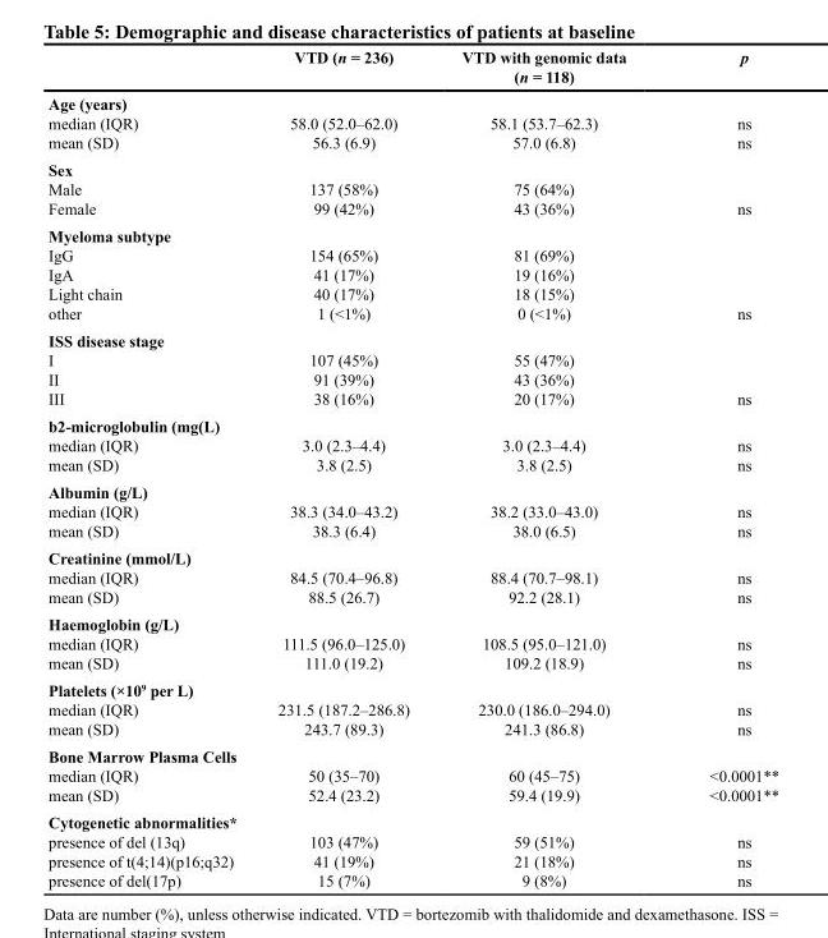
<table><thead><tr><td></td><td>VTD (n = 236)</td><td>VTD with genomic data (n = 118)</td><td>p</td></tr></thead><tbody><tr><td>Age (years) median (IQR) mean (SD)</td><td>58.0 (52.0–62.0) 56.3 (6.9)</td><td>58.1 (53.7–62.3) 57.0 (6.8)</td><td>ns ns</td></tr><tr><td>Sex Male Female</td><td>137 (58%) 99 (42%)</td><td>75 (64%) 43 (36%)</td><td>ns</td></tr><tr><td>Myeloma subtype IgG IgA Light chain other</td><td>154 (65%) 41 (17%) 40 (17%) 1 (&lt;1%)</td><td>81 (69%) 19 (16%) 18 (15%) 0 (&lt;1%)</td><td>ns</td></tr><tr><td>ISS disease stage I II III</td><td>107 (45%) 91 (39%) 38 (16%)</td><td>55 (47%) 43 (36%) 20 (17%)</td><td>ns</td></tr><tr><td>b2-microglobulin (mg(L) median (IQR) mean (SD)</td><td>3.0 (2.3–4.4) 3.8 (2.5)</td><td>3.0 (2.3–4.4) 3.8 (2.5)</td><td>ns ns</td></tr><tr><td>Albumin (g/L) median (IQR) mean (SD)</td><td>38.3 (34.0–43.2) 38.3 (6.4)</td><td>38.2 (33.0–43.0) 38.0 (6.5)</td><td>ns ns</td></tr><tr><td>Creatinine (mmol/L) median (IQR) mean (SD)</td><td>84.5 (70.4–96.8) 88.5 (26.7)</td><td>88.4 (70.7–98.1) 92.2 (28.1)</td><td>ns ns</td></tr><tr><td>Haemoglobin (g/L) median (IQR) mean (SD)</td><td>111.5 (96.0–125.0) 111.0 (19.2)</td><td>108.5 (95.0–121.0) 109.2 (18.9)</td><td>ns ns</td></tr><tr><td>Platelets (×10<sup>9</sup> per L) median (IQR) mean (SD)</td><td>231.5 (187.2–286.8) 243.7 (89.3)</td><td>230.0 (186.0–294.0) 241.3 (86.8)</td><td>ns ns</td></tr><tr><td>Bone Marrow Plasma Cells median (IQR) mean (SD)</td><td>50 (35–70) 52.4 (23.2)</td><td>60 (45–75) 59.4 (19.9)</td><td>&lt;0.0001** &lt;0.0001**</td></tr><tr><td>Cytogenetic abnormalities* presence of del (13q) presence of t(4;14)(p16;q32) presence of del(17p)</td><td>103 (47%) 41 (19%) 15 (7%)</td><td>59 (51%) 21 (18%) 9 (8%)</td><td>ns ns ns</td></tr></tbody></table>